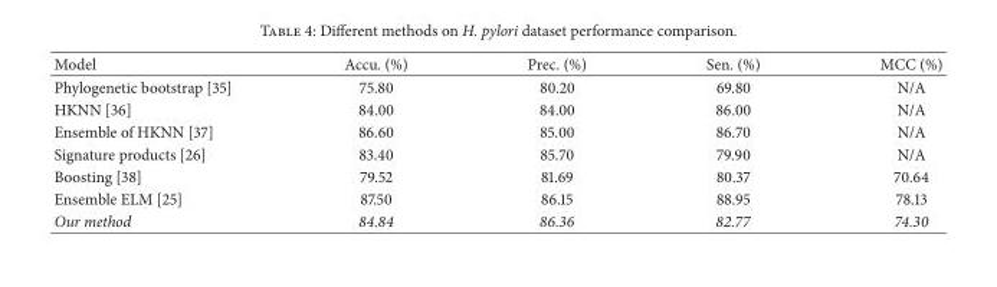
<table><thead><tr><td>Model</td><td>Accu. (%)</td><td>Prec. (%)</td><td>Sen. (%)</td><td>MCC (%)</td></tr></thead><tbody><tr><td>Phylogenetic bootstrap [35]</td><td>75.80</td><td>80.20</td><td>69.80</td><td>N/A</td></tr><tr><td>HKNN [36]</td><td>84.00</td><td>84.00</td><td>86.00</td><td>N/A</td></tr><tr><td>Ensemble of HKNN [37]</td><td>86.60</td><td>85.00</td><td>86.70</td><td>N/A</td></tr><tr><td>Signature products [26]</td><td>83.40</td><td>85.70</td><td>79.90</td><td>N/A</td></tr><tr><td>Boosting [38]</td><td>79.52</td><td>81.69</td><td>80.37</td><td>70.64</td></tr><tr><td>Ensemble ELM [25]</td><td>87.50</td><td>86.15</td><td>88.95</td><td>78.13</td></tr><tr><td>Our method</td><td>84.84</td><td>86.36</td><td>82.77</td><td>74.30</td></tr></tbody></table>